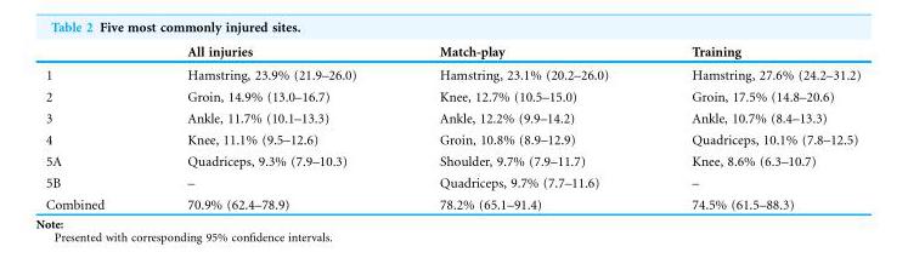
<table><thead><tr><td></td><td>All injuries</td><td>Match-play</td><td>Training</td></tr></thead><tbody><tr><td>1</td><td>Hamstring, 23.9% (21.9–26.0)</td><td>Hamstring, 23.1% (20.2–26.0)</td><td>Hamstring, 27.6% (24.2–31.2)</td></tr><tr><td>2</td><td>Groin, 14.9% (13.0–16.7)</td><td>Knee, 12.7% (10.5–15.0)</td><td>Groin, 17.5% (14.8–20.6)</td></tr><tr><td>3</td><td>Ankle, 11.7% (10.1–13.3)</td><td>Ankle, 12.2% (9.9–14.2)</td><td>Ankle, 10.7% (8.4–13.3)</td></tr><tr><td>4</td><td>Knee, 11.1% (9.5–12.6)</td><td>Groin, 10.8% (8.9–12.9)</td><td>Quadriceps, 10.1% (7.8–12.5)</td></tr><tr><td>5A</td><td>Quadriceps, 9.3% (7.9–10.3)</td><td>Shoulder, 9.7% (7.9–11.7)</td><td>Knee, 8.6% (6.3–10.7)</td></tr><tr><td>5B</td><td>–</td><td>Quadriceps, 9.7% (7.7–11.6)</td><td>–</td></tr><tr><td>Combined</td><td>70.9% (62.4–78.9)</td><td>78.2% (65.1–91.4)</td><td>74.5% (61.5–88.3)</td></tr></tbody></table>